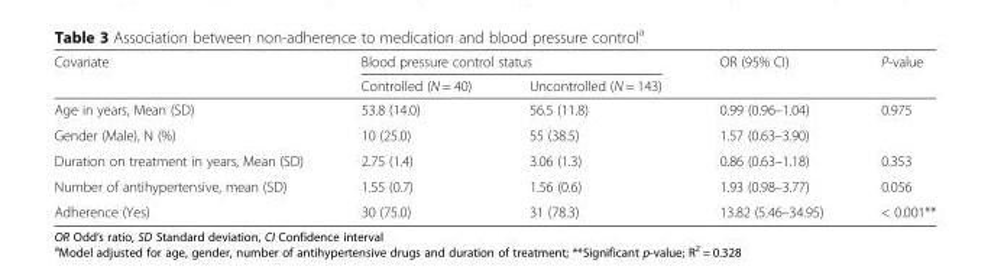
<table><thead><tr><td rowspan="2">Covariate</td><td colspan="2">Blood pressure control status</td><td rowspan="2">OR (95% CI)</td><td rowspan="2">P-value</td></tr><tr><td>Controlled (N = 40)</td><td>Uncontrolled (N = 143)</td></tr></thead><tbody><tr><td>Age in years, Mean (SD)</td><td>53.8 (14.0)</td><td>56.5 (11.8)</td><td>0.99 (0.96–1.04)</td><td>0.975</td></tr><tr><td>Gender (Male), N (%)</td><td>10 (25.0)</td><td>55 (38.5)</td><td>1.57 (0.63–3.90)</td><td></td></tr><tr><td>Duration on treatment in years, Mean (SD)</td><td>2.75 (1.4)</td><td>3.06 (1.3)</td><td>0.86 (0.63–1.18)</td><td>0.353</td></tr><tr><td>Number of antihypertensive, mean (SD)</td><td>1.55 (0.7)</td><td>1.56 (0.6)</td><td>1.93 (0.98–3.77)</td><td>0.056</td></tr><tr><td>Adherence (Yes)</td><td>30 (75.0)</td><td>31 (78.3)</td><td>13.82 (5.46–34.95)</td><td>&lt; 0.001**</td></tr></tbody></table>